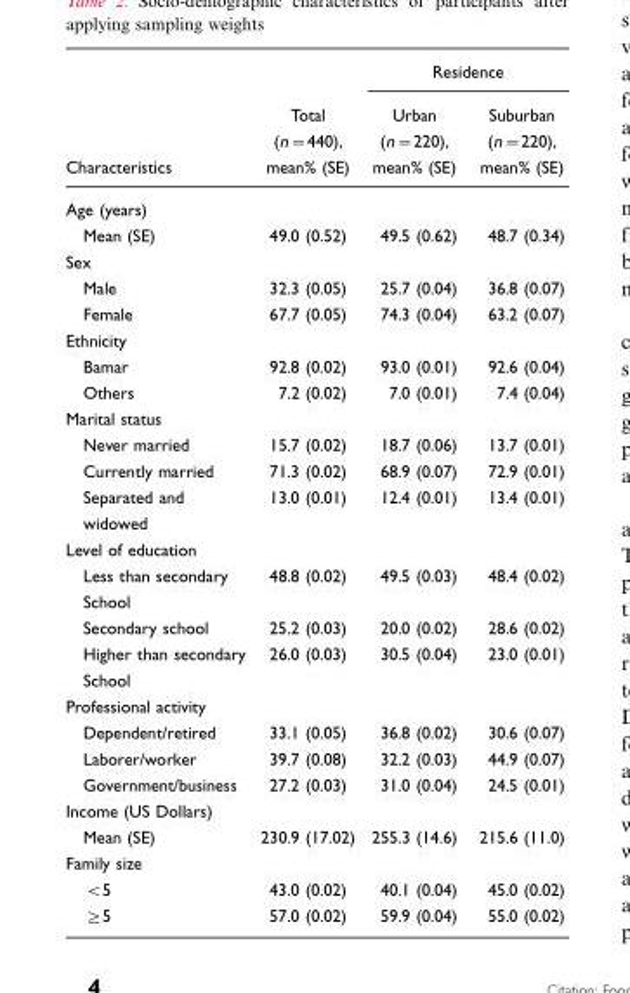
<table><thead><tr><td rowspan="2">Characteristics</td><td rowspan="2">Total (n=440), mean% (SE)</td><td colspan="2">Residence</td></tr><tr><td>Urban (n=220), mean% (SE)</td><td>Suburban (n=220), mean% (SE)</td></tr></thead><tbody><tr><td colspan="4">Age (years)</td></tr><tr><td>Mean (SE)</td><td>49.0 (0.52)</td><td>49.5 (0.62)</td><td>48.7 (0.34)</td></tr><tr><td colspan="4">Sex</td></tr><tr><td>Male</td><td>32.3 (0.05)</td><td>25.7 (0.04)</td><td>36.8 (0.07)</td></tr><tr><td>Female</td><td>67.7 (0.05)</td><td>74.3 (0.04)</td><td>63.2 (0.07)</td></tr><tr><td colspan="4">Ethnicity</td></tr><tr><td>Bamar</td><td>92.8 (0.02)</td><td>93.0 (0.01)</td><td>92.6 (0.04)</td></tr><tr><td>Others</td><td>7.2 (0.02)</td><td>7.0 (0.01)</td><td>7.4 (0.04)</td></tr><tr><td colspan="4">Marital status</td></tr><tr><td>Never married</td><td>15.7 (0.02)</td><td>18.7 (0.06)</td><td>13.7 (0.01)</td></tr><tr><td>Currently married</td><td>71.3 (0.02)</td><td>68.9 (0.07)</td><td>72.9 (0.01)</td></tr><tr><td>Separated and widowed</td><td>13.0 (0.01)</td><td>12.4 (0.01)</td><td>13.4 (0.01)</td></tr><tr><td colspan="4">Level of education</td></tr><tr><td>Less than secondary School</td><td>48.8 (0.02)</td><td>49.5 (0.03)</td><td>48.4 (0.02)</td></tr><tr><td>Secondary school</td><td>25.2 (0.03)</td><td>20.0 (0.02)</td><td>28.6 (0.02)</td></tr><tr><td>Higher than secondary School</td><td>26.0 (0.03)</td><td>30.5 (0.04)</td><td>23.0 (0.01)</td></tr><tr><td colspan="4">Professional activity</td></tr><tr><td>Dependent/retired</td><td>33.1 (0.05)</td><td>36.8 (0.02)</td><td>30.6 (0.07)</td></tr><tr><td>Laborer/worker</td><td>39.7 (0.08)</td><td>32.2 (0.03)</td><td>44.9 (0.07)</td></tr><tr><td>Government/business</td><td>27.2 (0.03)</td><td>31.0 (0.04)</td><td>24.5 (0.01)</td></tr><tr><td colspan="4">Income (US Dollars)</td></tr><tr><td>Mean (SE)</td><td>230.9 (17.02)</td><td>255.3 (14.6)</td><td>215.6 (11.0)</td></tr><tr><td colspan="4">Family size</td></tr><tr><td>&lt;5</td><td>43.0 (0.02)</td><td>40.1 (0.04)</td><td>45.0 (0.02)</td></tr><tr><td>≥5</td><td>57.0 (0.02)</td><td>59.9 (0.04)</td><td>55.0 (0.02)</td></tr></tbody></table>